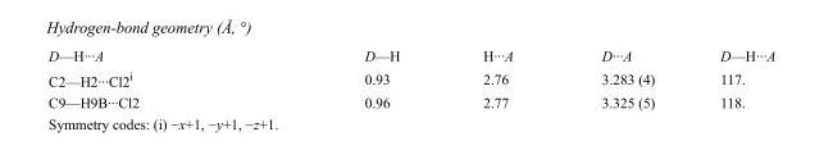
<table><tbody><tr><td>D—H···A</td><td>D—H</td><td>H···A</td><td>D···A</td><td>D—H···A</td></tr><tr><td>C2—H2···Cl2<sup>i</sup></td><td>0.93</td><td>2.76</td><td>3.283 (4)</td><td>117.</td></tr><tr><td>C9—H9B···Cl2</td><td>0.96</td><td>2.77</td><td>3.325 (5)</td><td>118.</td></tr></tbody></table>